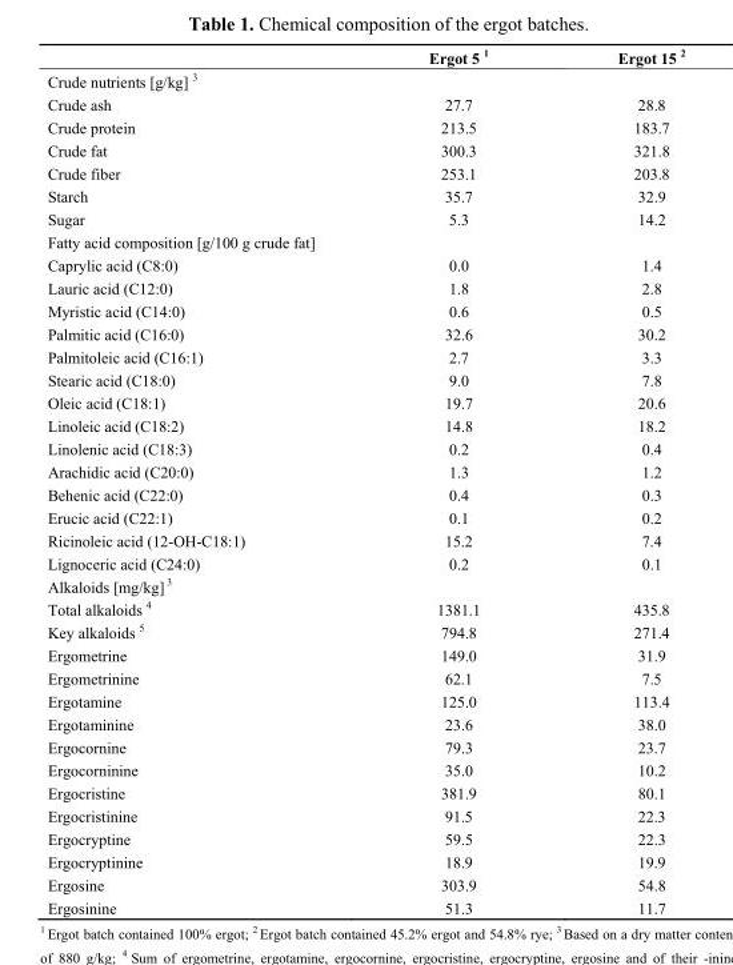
<table><thead><tr><td></td><td>Ergot 5 <sup>1</sup></td><td>Ergot 15 <sup>2</sup></td></tr></thead><tbody><tr><td colspan="3">Crude nutrients [g/kg] <sup>3</sup></td></tr><tr><td>Crude ash</td><td>27.7</td><td>28.8</td></tr><tr><td>Crude protein</td><td>213.5</td><td>183.7</td></tr><tr><td>Crude fat</td><td>300.3</td><td>321.8</td></tr><tr><td>Crude fiber</td><td>253.1</td><td>203.8</td></tr><tr><td>Starch</td><td>35.7</td><td>32.9</td></tr><tr><td>Sugar</td><td>5.3</td><td>14.2</td></tr><tr><td colspan="3">Fatty acid composition [g/100 g crude fat]</td></tr><tr><td>Caprylic acid (C8:0)</td><td>0.0</td><td>1.4</td></tr><tr><td>Lauric acid (C12:0)</td><td>1.8</td><td>2.8</td></tr><tr><td>Myristic acid (C14:0)</td><td>0.6</td><td>0.5</td></tr><tr><td>Palmitic acid (C16:0)</td><td>32.6</td><td>30.2</td></tr><tr><td>Palmitoleic acid (C16:1)</td><td>2.7</td><td>3.3</td></tr><tr><td>Stearic acid (C18:0)</td><td>9.0</td><td>7.8</td></tr><tr><td>Oleic acid (C18:1)</td><td>19.7</td><td>20.6</td></tr><tr><td>Linoleic acid (C18:2)</td><td>14.8</td><td>18.2</td></tr><tr><td>Linolenic acid (C18:3)</td><td>0.2</td><td>0.4</td></tr><tr><td>Arachidic acid (C20:0)</td><td>1.3</td><td>1.2</td></tr><tr><td>Behenic acid (C22:0)</td><td>0.4</td><td>0.3</td></tr><tr><td>Erucic acid (C22:1)</td><td>0.1</td><td>0.2</td></tr><tr><td>Ricinoleic acid (12-OH-C18:1)</td><td>15.2</td><td>7.4</td></tr><tr><td>Lignoceric acid (C24:0)</td><td>0.2</td><td>0.1</td></tr><tr><td colspan="3">Alkaloids [mg/kg] <sup>3</sup></td></tr><tr><td>Total alkaloids <sup>4</sup></td><td>1381.1</td><td>435.8</td></tr><tr><td>Key alkaloids <sup>5</sup></td><td>794.8</td><td>271.4</td></tr><tr><td>Ergometrine</td><td>149.0</td><td>31.9</td></tr><tr><td>Ergometrinine</td><td>62.1</td><td>7.5</td></tr><tr><td>Ergotamine</td><td>125.0</td><td>113.4</td></tr><tr><td>Ergotaminine</td><td>23.6</td><td>38.0</td></tr><tr><td>Ergocornine</td><td>79.3</td><td>23.7</td></tr><tr><td>Ergocorninine</td><td>35.0</td><td>10.2</td></tr><tr><td>Ergocristine</td><td>381.9</td><td>80.1</td></tr><tr><td>Ergocristinine</td><td>91.5</td><td>22.3</td></tr><tr><td>Ergocryptine</td><td>59.5</td><td>22.3</td></tr><tr><td>Ergocryptinine</td><td>18.9</td><td>19.9</td></tr><tr><td>Ergosine</td><td>303.9</td><td>54.8</td></tr><tr><td>Ergosinine</td><td>51.3</td><td>11.7</td></tr></tbody></table>